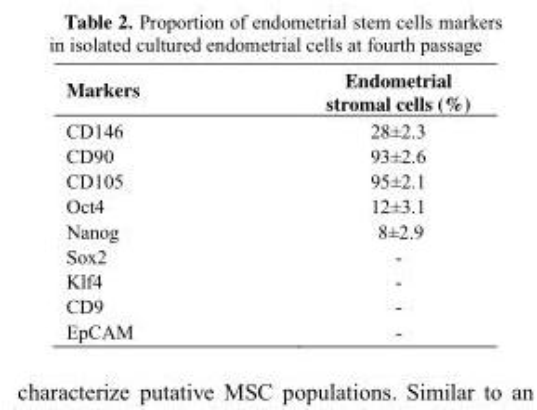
<table><thead><tr><td>Markers</td><td>Endometrial stromal cells (%)</td></tr></thead><tbody><tr><td>CD146</td><td>28±2.3</td></tr><tr><td>CD90</td><td>93±2.6</td></tr><tr><td>CD105</td><td>95±2.1</td></tr><tr><td>Oct4</td><td>12±3.1</td></tr><tr><td>Nanog</td><td>8±2.9</td></tr><tr><td>Sox2</td><td>-</td></tr><tr><td>Klf4</td><td>-</td></tr><tr><td>CD9</td><td>-</td></tr><tr><td>EpCAM</td><td>-</td></tr></tbody></table>